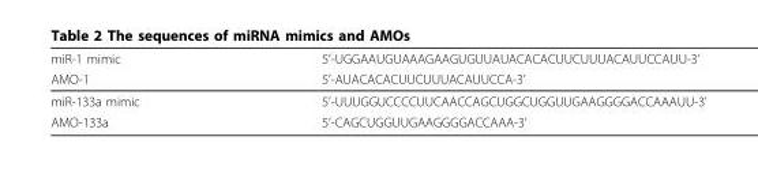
<table><thead><tr><td rowspan="2">miR-1 mimic AMO-1</td><td rowspan="2">5’-UGGAAUGUAAAGAAGUGUUAUACACACUUCUUUACAUUCCAUU-3’ 5’-AUACACACUUCUUUACAUUCCA-3’</td></tr><tr></tr></thead><tbody><tr><td>miR-133a mimic</td><td>5’-UUUGGUCCCCUUCAACCAGCUGGCUGGUUGAAGGGGACCAAAUU-3’</td></tr><tr><td>AMO-133a</td><td>5’-CAGCUGGUUGAAGGGGACCAAA-3’</td></tr></tbody></table>